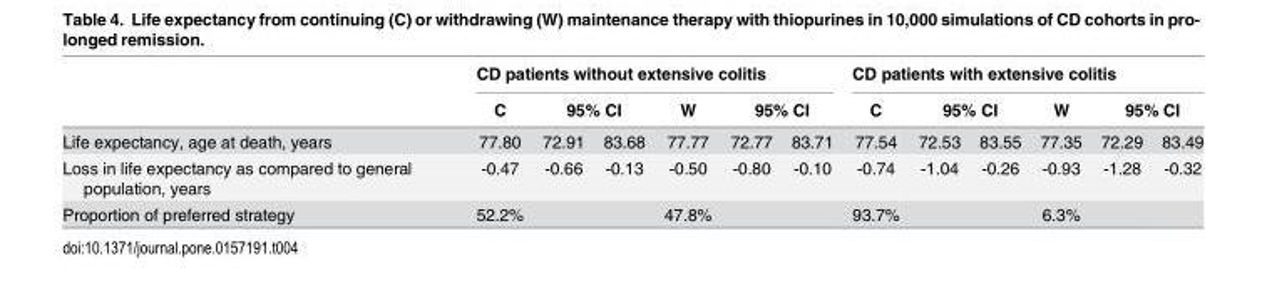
<table><thead><tr><td rowspan="3">Life expectancy, age at death, years</td><td colspan="6">CD patients without extensive colitis</td><td colspan="6">CD patients with extensive colitis</td></tr><tr><td rowspan="2">C 77.80</td><td colspan="2">95% CI</td><td rowspan="2">W 77.77</td><td colspan="2">95% CI</td><td rowspan="2">C 77.54</td><td colspan="2">95% CI</td><td rowspan="2">W 77.35</td><td colspan="2">95% CI</td></tr><tr><td>72.91</td><td>83.68</td><td>72.77</td><td>83.71</td><td>72.53</td><td>83.55</td><td>72.29</td><td>83.49</td></tr></thead><tbody><tr><td>Loss in life expectancy as compared to general population, years</td><td>-0.47</td><td>-0.66</td><td>-0.13</td><td>-0.50</td><td>-0.80</td><td>-0.10</td><td>-0.74</td><td>-1.04</td><td>-0.26</td><td>-0.93</td><td>-1.28</td><td>-0.32</td></tr><tr><td>Proportion of preferred strategy</td><td>52.2%</td><td></td><td></td><td>47.8%</td><td></td><td></td><td>93.7%</td><td></td><td></td><td>6.3%</td><td></td><td></td></tr></tbody></table>